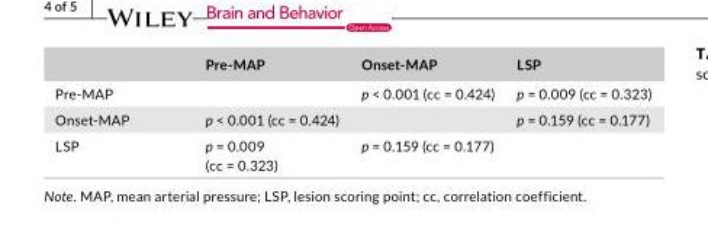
<table><thead><tr><td></td><td>Pre- MAP</td><td>Onset- MAP</td><td>LSP</td></tr></thead><tbody><tr><td>Pre- MAP</td><td></td><td>p &lt; 0.001 (cc = 0.424)</td><td>p = 0.009 (cc = 0.323)</td></tr><tr><td>Onset- MAP</td><td>p &lt; 0.001 (cc = 0.424)</td><td></td><td>p = 0.159 (cc = 0.177)</td></tr><tr><td>LSP</td><td>p = 0.009 (cc = 0.323)</td><td>p = 0.159 (cc = 0.177)</td><td></td></tr></tbody></table>